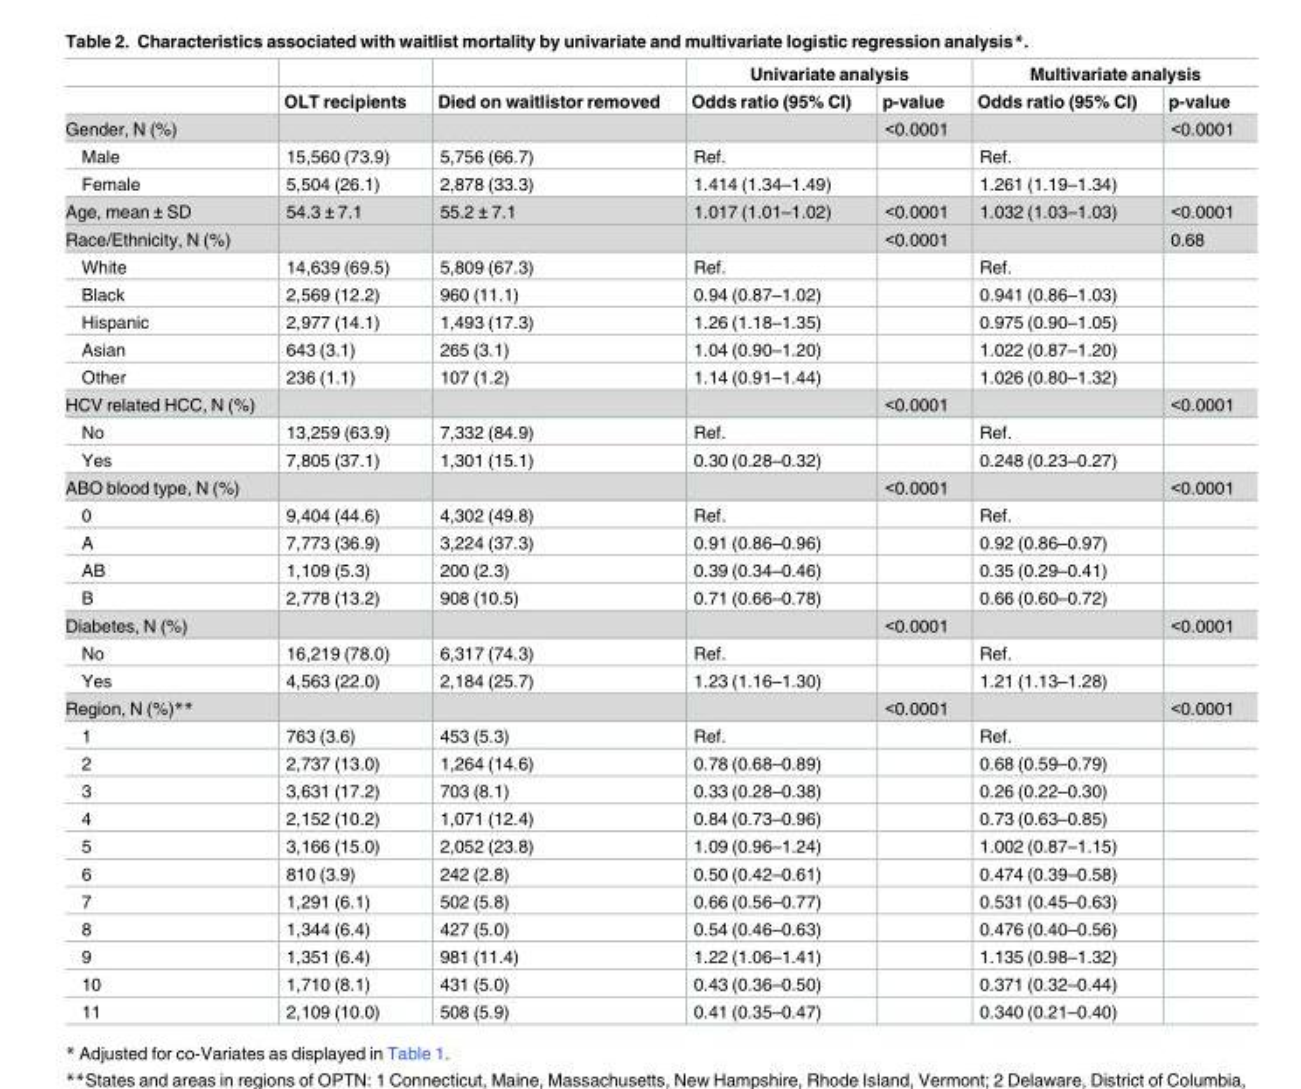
<table><thead><tr><td rowspan="2"></td><td rowspan="2">OLT recipients</td><td rowspan="2">Died on waitlistor removed</td><td colspan="2">Univariate analysis</td><td colspan="2">Multivariate analysis</td></tr><tr><td>Odds ratio (95% CI)</td><td>p-value</td><td>Odds ratio (95% CI)</td><td>p-value</td></tr></thead><tbody><tr><td>Gender, N (%)</td><td></td><td></td><td></td><td>&lt;0.0001</td><td></td><td>&lt;0.0001</td></tr><tr><td>Male</td><td>15,560 (73.9)</td><td>5,756 (66.7)</td><td>Ref.</td><td></td><td>Ref.</td><td></td></tr><tr><td>Female</td><td>5,504 (26.1)</td><td>2,878 (33.3)</td><td>1.414 (1.34–1.49)</td><td></td><td>1.261 (1.19–1.34)</td><td></td></tr><tr><td>Age, mean ± SD</td><td>54.3 ± 7.1</td><td>55.2 ± 7.1</td><td>1.017 (1.01–1.02)</td><td>&lt;0.0001</td><td>1.032 (1.03–1.03)</td><td>&lt;0.0001</td></tr><tr><td>Race/Ethnicity, N (%)</td><td></td><td></td><td></td><td>&lt;0.0001</td><td></td><td>0.68</td></tr><tr><td>White</td><td>14,639 (69.5)</td><td>5,809 (67.3)</td><td>Ref.</td><td></td><td>Ref.</td><td></td></tr><tr><td>Black</td><td>2,569 (12.2)</td><td>960 (11.1)</td><td>0.94 (0.87–1.02)</td><td></td><td>0.941 (0.86–1.03)</td><td></td></tr><tr><td>Hispanic</td><td>2,977 (14.1)</td><td>1,493 (17.3)</td><td>1.26 (1.18–1.35)</td><td></td><td>0.975 (0.90–1.05)</td><td></td></tr><tr><td>Asian</td><td>643 (3.1)</td><td>265 (3.1)</td><td>1.04 (0.90–1.20)</td><td></td><td>1.022 (0.87–1.20)</td><td></td></tr><tr><td>Other</td><td>236 (1.1)</td><td>107 (1.2)</td><td>1.14 (0.91–1.44)</td><td></td><td>1.026 (0.80–1.32)</td><td></td></tr><tr><td>HCV related HCC, N (%)</td><td></td><td></td><td></td><td>&lt;0.0001</td><td></td><td>&lt;0.0001</td></tr><tr><td>No</td><td>13,259 (63.9)</td><td>7,332 (84.9)</td><td>Ref.</td><td></td><td>Ref.</td><td></td></tr><tr><td>Yes</td><td>7,805 (37.1)</td><td>1,301 (15.1)</td><td>0.30 (0.28–0.32)</td><td></td><td>0.248 (0.23–0.27)</td><td></td></tr><tr><td>ABO blood type, N (%)</td><td></td><td></td><td></td><td>&lt;0.0001</td><td></td><td>&lt;0.0001</td></tr><tr><td>0</td><td>9,404 (44.6)</td><td>4,302 (49.8)</td><td>Ref.</td><td></td><td>Ref.</td><td></td></tr><tr><td>A</td><td>7,773 (36.9)</td><td>3,224 (37.3)</td><td>0.91 (0.86–0.96)</td><td></td><td>0.92 (0.86–0.97)</td><td></td></tr><tr><td>AB</td><td>1,109 (5.3)</td><td>200 (2.3)</td><td>0.39 (0.34–0.46)</td><td></td><td>0.35 (0.29–0.41)</td><td></td></tr><tr><td>B</td><td>2,778 (13.2)</td><td>908 (10.5)</td><td>0.71 (0.66–0.78)</td><td></td><td>0.66 (0.60–0.72)</td><td></td></tr><tr><td>Diabetes, N (%)</td><td></td><td></td><td></td><td>&lt;0.0001</td><td></td><td>&lt;0.0001</td></tr><tr><td>No</td><td>16,219 (78.0)</td><td>6,317 (74.3)</td><td>Ref.</td><td></td><td>Ref.</td><td></td></tr><tr><td>Yes</td><td>4,563 (22.0)</td><td>2,184 (25.7)</td><td>1.23 (1.16–1.30)</td><td></td><td>1.21 (1.13–1.28)</td><td></td></tr><tr><td>Region, N (%)**</td><td></td><td></td><td></td><td>&lt;0.0001</td><td></td><td>&lt;0.0001</td></tr><tr><td>1</td><td>763 (3.6)</td><td>453 (5.3)</td><td>Ref.</td><td></td><td>Ref.</td><td></td></tr><tr><td>2</td><td>2,737 (13.0)</td><td>1,264 (14.6)</td><td>0.78 (0.68–0.89)</td><td></td><td>0.68 (0.59–0.79)</td><td></td></tr><tr><td>3</td><td>3,631 (17.2)</td><td>703 (8.1)</td><td>0.33 (0.28–0.38)</td><td></td><td>0.26 (0.22–0.30)</td><td></td></tr><tr><td>4</td><td>2,152 (10.2)</td><td>1,071 (12.4)</td><td>0.84 (0.73–0.96)</td><td></td><td>0.73 (0.63–0.85)</td><td></td></tr><tr><td>5</td><td>3,166 (15.0)</td><td>2,052 (23.8)</td><td>1.09 (0.96–1.24)</td><td></td><td>1.002 (0.87–1.15)</td><td></td></tr><tr><td>6</td><td>810 (3.9)</td><td>242 (2.8)</td><td>0.50 (0.42–0.61)</td><td></td><td>0.474 (0.39–0.58)</td><td></td></tr><tr><td>7</td><td>1,291 (6.1)</td><td>502 (5.8)</td><td>0.66 (0.56–0.77)</td><td></td><td>0.531 (0.45–0.63)</td><td></td></tr><tr><td>8</td><td>1,344 (6.4)</td><td>427 (5.0)</td><td>0.54 (0.46–0.63)</td><td></td><td>0.476 (0.40–0.56)</td><td></td></tr><tr><td>9</td><td>1,351 (6.4)</td><td>981 (11.4)</td><td>1.22 (1.06–1.41)</td><td></td><td>1.135 (0.98–1.32)</td><td></td></tr><tr><td>10</td><td>1,710 (8.1)</td><td>431 (5.0)</td><td>0.43 (0.36–0.50)</td><td></td><td>0.371 (0.32–0.44)</td><td></td></tr><tr><td>11</td><td>2,109 (10.0)</td><td>508 (5.9)</td><td>0.41 (0.35–0.47)</td><td></td><td>0.340 (0.21–0.40)</td><td></td></tr></tbody></table>